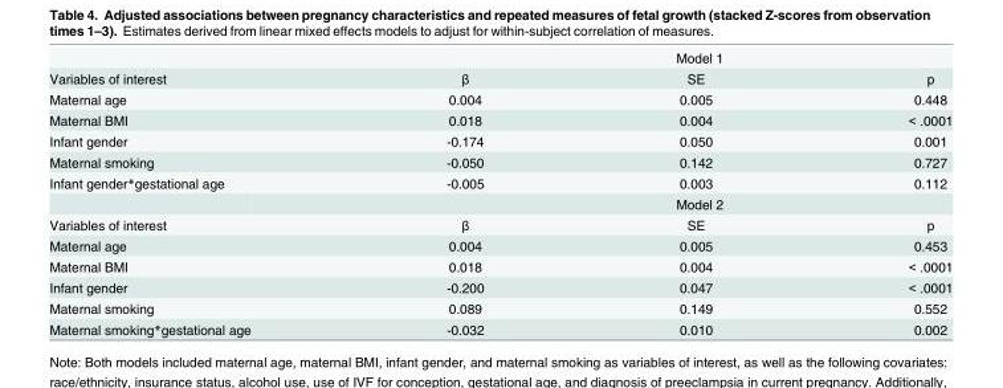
<table><thead><tr><td rowspan="2">Variables of interest</td><td colspan="3">Model 1</td></tr><tr><td>β</td><td>SE</td><td>p</td></tr></thead><tbody><tr><td>Maternal age</td><td>0.004</td><td>0.005</td><td>0.448</td></tr><tr><td>Maternal BMI</td><td>0.018</td><td>0.004</td><td>&lt; .0001</td></tr><tr><td>Infant gender</td><td>-0.174</td><td>0.050</td><td>0.001</td></tr><tr><td>Maternal smoking</td><td>-0.050</td><td>0.142</td><td>0.727</td></tr><tr><td rowspan="2">Infant gender*gestational age</td><td>-0.005</td><td>0.003</td><td>0.112</td></tr><tr><td colspan="3">Model 2</td></tr><tr><td>Variables of interest</td><td>β</td><td>SE</td><td>p</td></tr><tr><td>Maternal age</td><td>0.004</td><td>0.005</td><td>0.453</td></tr><tr><td>Maternal BMI</td><td>0.018</td><td>0.004</td><td>&lt; .0001</td></tr><tr><td>Infant gender</td><td>-0.200</td><td>0.047</td><td>&lt; .0001</td></tr><tr><td>Maternal smoking</td><td>0.089</td><td>0.149</td><td>0.552</td></tr><tr><td>Maternal smoking*gestational age</td><td>-0.032</td><td>0.010</td><td>0.002</td></tr></tbody></table>